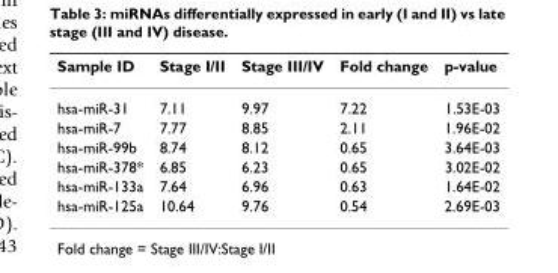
<table><thead><tr><td>Sample ID</td><td>Stage I/II</td><td>Stage III/IV</td><td>Fold change</td><td>p-value</td></tr></thead><tbody><tr><td>hsa-miR-31</td><td>7.11</td><td>9.97</td><td>7.22</td><td>1.53E-03</td></tr><tr><td>hsa-miR-7</td><td>7.77</td><td>8.85</td><td>2.11</td><td>1.96E-02</td></tr><tr><td>hsa-miR-99b</td><td>8.74</td><td>8.12</td><td>0.65</td><td>3.64E-03</td></tr><tr><td>hsa-miR-378*</td><td>6.85</td><td>6.23</td><td>0.65</td><td>3.02E-02</td></tr><tr><td>hsa-miR-133a</td><td>7.64</td><td>6.96</td><td>0.63</td><td>1.64E-02</td></tr><tr><td>hsa-miR-125a</td><td>10.64</td><td>9.76</td><td>0.54</td><td>2.69E-03</td></tr></tbody></table>